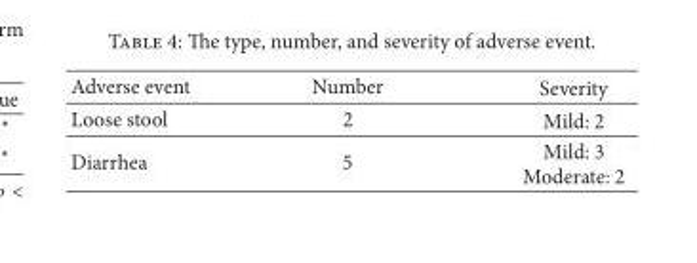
<table><thead><tr><td>Adverse event</td><td>Number</td><td>Severity</td></tr></thead><tbody><tr><td>Loose stool</td><td>2</td><td>Mild: 2</td></tr><tr><td>Diarrhea</td><td>5</td><td>Mild: 3 Moderate: 2</td></tr></tbody></table>